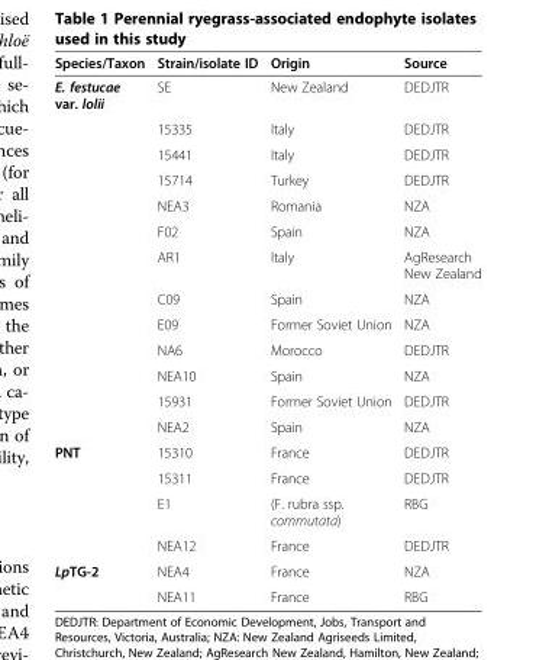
<table><thead><tr><td>Species/Taxon</td><td>Strain/isolate ID</td><td>Origin</td><td>Source</td></tr></thead><tbody><tr><td rowspan="13">E. festucae var. lolii</td><td>SE</td><td>New Zealand</td><td>DEDJTR</td></tr><tr><td>15335</td><td>Italy</td><td>DEDJTR</td></tr><tr><td>15441</td><td>Italy</td><td>DEDJTR</td></tr><tr><td>15714</td><td>Turkey</td><td>DEDJTR</td></tr><tr><td>NEA3</td><td>Romania</td><td>NZA</td></tr><tr><td>F02</td><td>Spain</td><td>NZA</td></tr><tr><td>AR1</td><td>Italy</td><td>AgResearch New Zealand</td></tr><tr><td>C09</td><td>Spain</td><td>NZA</td></tr><tr><td>E09</td><td>Former Soviet Union</td><td>NZA</td></tr><tr><td>NA6</td><td>Morocco</td><td>DEDJTR</td></tr><tr><td>NEA10</td><td>Spain</td><td>NZA</td></tr><tr><td>15931</td><td>Former Soviet Union</td><td>DEDJTR</td></tr><tr><td>NEA2</td><td>Spain</td><td>NZA</td></tr><tr><td rowspan="4">PNT</td><td>15310</td><td>France</td><td>DEDJTR</td></tr><tr><td>15311</td><td>France</td><td>DEDJTR</td></tr><tr><td>E1</td><td>(F. rubra ssp. commutata)</td><td>RBG</td></tr><tr><td>NEA12</td><td>France</td><td>DEDJTR</td></tr><tr><td rowspan="2">LpTG-2</td><td>NEA4</td><td>France</td><td>NZA</td></tr><tr><td>NEA11</td><td>France</td><td>RBG</td></tr></tbody></table>